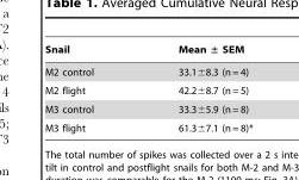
<table><thead><tr><td>Snail</td><td>Mean ± SEM</td></tr></thead><tbody><tr><td>M2 control</td><td>33.1±8.3 (n = 4)</td></tr><tr><td>M2 flight</td><td>42.2±8.7 (n = 5)</td></tr><tr><td>M3 control</td><td>33.3±5.9 (n = 8)</td></tr><tr><td>M3 flight</td><td>61.3±7.1 (n = 8)*</td></tr></tbody></table>